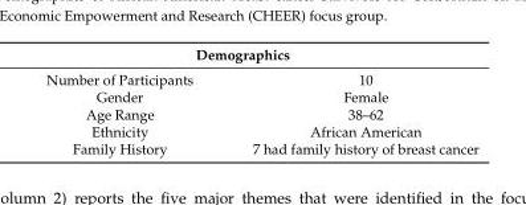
<table><thead><tr><td colspan="2">Demographics</td></tr><tr><td>Number of Participants</td><td>10</td></tr></thead><tbody><tr><td>Gender</td><td>Female</td></tr><tr><td>Age Range</td><td>38–62</td></tr><tr><td>Ethnicity</td><td>African American</td></tr><tr><td>Family History</td><td>7 had family history of breast cancer</td></tr></tbody></table>